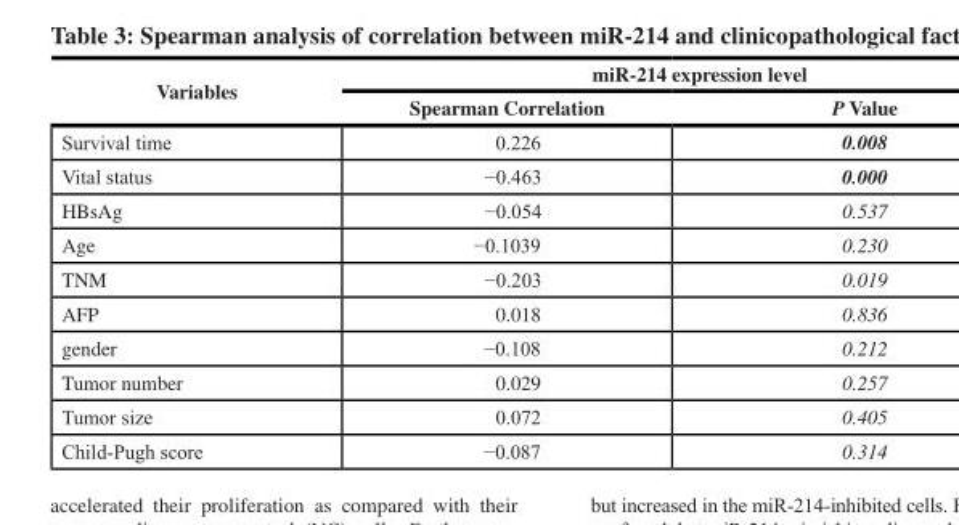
<table><thead><tr><td rowspan="2">Variables</td><td colspan="2">miR-214 expression level</td></tr><tr><td>Spearman Correlation</td><td>P Value</td></tr></thead><tbody><tr><td>Survival time</td><td>0.226</td><td>0.008</td></tr><tr><td>Vital status</td><td>−0.463</td><td>0.000</td></tr><tr><td>HBsAg</td><td>−0.054</td><td>0.537</td></tr><tr><td>Age</td><td>−0.1039</td><td>0.230</td></tr><tr><td>TNM</td><td>−0.203</td><td>0.019</td></tr><tr><td>AFP</td><td>0.018</td><td>0.836</td></tr><tr><td>gender</td><td>−0.108</td><td>0.212</td></tr><tr><td>Tumor number</td><td>0.029</td><td>0.257</td></tr><tr><td>Tumor size</td><td>0.072</td><td>0.405</td></tr><tr><td>Child-Pugh score</td><td>−0.087</td><td>0.314</td></tr></tbody></table>